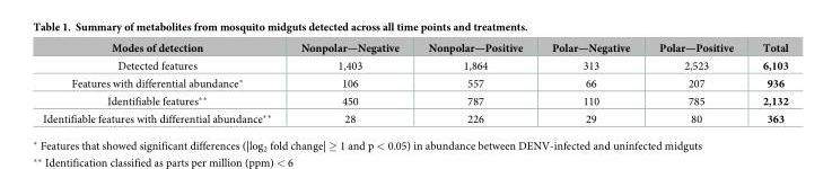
<table><thead><tr><td>Modes of detection</td><td>Nonpolar—Negative</td><td>Nonpolar—Positive</td><td>Polar—Negative</td><td>Polar—Positive</td><td>Total</td></tr></thead><tbody><tr><td>Detected features</td><td>1,403</td><td>1,864</td><td>313</td><td>2,523</td><td>6,103</td></tr><tr><td>Features with differential abundance*</td><td>106</td><td>557</td><td>66</td><td>207</td><td>936</td></tr><tr><td>Identifiable features**</td><td>450</td><td>787</td><td>110</td><td>785</td><td>2,132</td></tr><tr><td>Identifiable features with differential abundance**</td><td>28</td><td>226</td><td>29</td><td>80</td><td>363</td></tr></tbody></table>